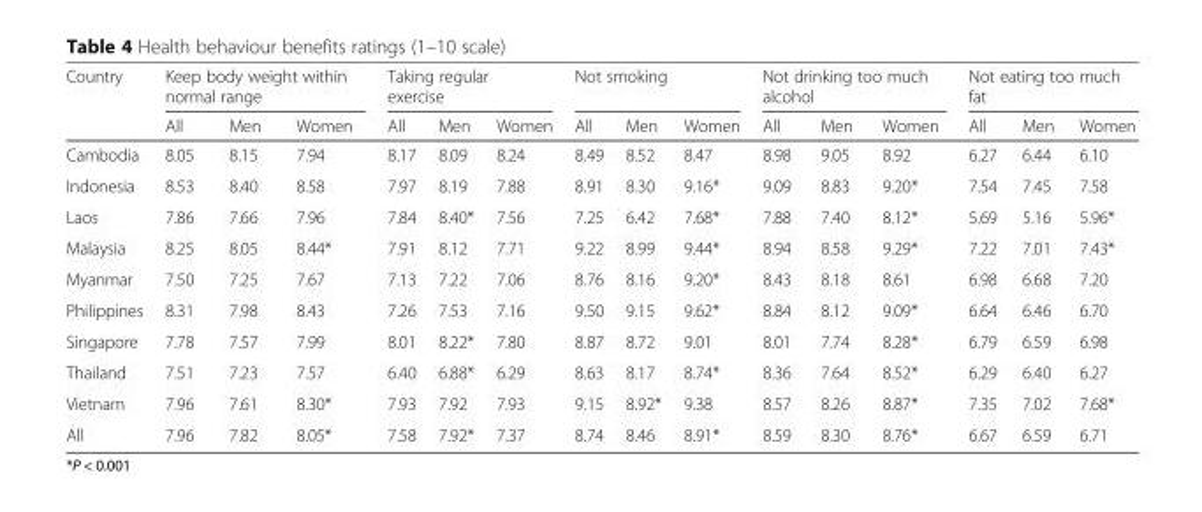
<table><thead><tr><td rowspan="2">Country</td><td colspan="3">Keep body weight within normal range</td><td colspan="3">Taking regular exercise</td><td colspan="3">Not smoking</td><td colspan="3">Not drinking too much alcohol</td><td colspan="3">Not eating too much fat</td></tr><tr><td>All</td><td>Men</td><td>Women</td><td>All</td><td>Men</td><td>Women</td><td>All</td><td>Men</td><td>Women</td><td>All</td><td>Men</td><td>Women</td><td>All</td><td>Men</td><td>Women</td></tr></thead><tbody><tr><td>Cambodia</td><td>8.05</td><td>8.15</td><td>7.94</td><td>8.17</td><td>8.09</td><td>8.24</td><td>8.49</td><td>8.52</td><td>8.47</td><td>8.98</td><td>9.05</td><td>8.92</td><td>6.27</td><td>6.44</td><td>6.10</td></tr><tr><td>Indonesia</td><td>8.53</td><td>8.40</td><td>8.58</td><td>7.97</td><td>8.19</td><td>7.88</td><td>8.91</td><td>8.30</td><td>9.16*</td><td>9.09</td><td>8.83</td><td>9.20*</td><td>7.54</td><td>7.45</td><td>7.58</td></tr><tr><td>Laos</td><td>7.86</td><td>7.66</td><td>7.96</td><td>7.84</td><td>8.40*</td><td>7.56</td><td>7.25</td><td>6.42</td><td>7.68*</td><td>7.88</td><td>7.40</td><td>8.12*</td><td>5.69</td><td>5.16</td><td>5.96*</td></tr><tr><td>Malaysia</td><td>8.25</td><td>8.05</td><td>8.44*</td><td>7.91</td><td>8.12</td><td>7.71</td><td>9.22</td><td>8.99</td><td>9.44*</td><td>8.94</td><td>8.58</td><td>9.29*</td><td>7.22</td><td>7.01</td><td>7.43*</td></tr><tr><td>Myanmar</td><td>7.50</td><td>7.25</td><td>7.67</td><td>7.13</td><td>7.22</td><td>7.06</td><td>8.76</td><td>8.16</td><td>9.20*</td><td>8.43</td><td>8.18</td><td>8.61</td><td>6.98</td><td>6.68</td><td>7.20</td></tr><tr><td>Philippines</td><td>8.31</td><td>7.98</td><td>8.43</td><td>7.26</td><td>7.53</td><td>7.16</td><td>9.50</td><td>9.15</td><td>9.62*</td><td>8.84</td><td>8.12</td><td>9.09*</td><td>6.64</td><td>6.46</td><td>6.70</td></tr><tr><td>Singapore</td><td>7.78</td><td>7.57</td><td>7.99</td><td>8.01</td><td>8.22*</td><td>7.80</td><td>8.87</td><td>8.72</td><td>9.01</td><td>8.01</td><td>7.74</td><td>8.28*</td><td>6.79</td><td>6.59</td><td>6.98</td></tr><tr><td>Thailand</td><td>7.51</td><td>7.23</td><td>7.57</td><td>6.40</td><td>6.88*</td><td>6.29</td><td>8.63</td><td>8.17</td><td>8.74*</td><td>8.36</td><td>7.64</td><td>8.52*</td><td>6.29</td><td>6.40</td><td>6.27</td></tr><tr><td>Vietnam</td><td>7.96</td><td>7.61</td><td>8.30*</td><td>7.93</td><td>7.92</td><td>7.93</td><td>9.15</td><td>8.92*</td><td>9.38</td><td>8.57</td><td>8.26</td><td>8.87*</td><td>7.35</td><td>7.02</td><td>7.68*</td></tr><tr><td>All</td><td>7.96</td><td>7.82</td><td>8.05*</td><td>7.58</td><td>7.92*</td><td>7.37</td><td>8.74</td><td>8.46</td><td>8.91*</td><td>8.59</td><td>8.30</td><td>8.76*</td><td>6.67</td><td>6.59</td><td>6.71</td></tr></tbody></table>